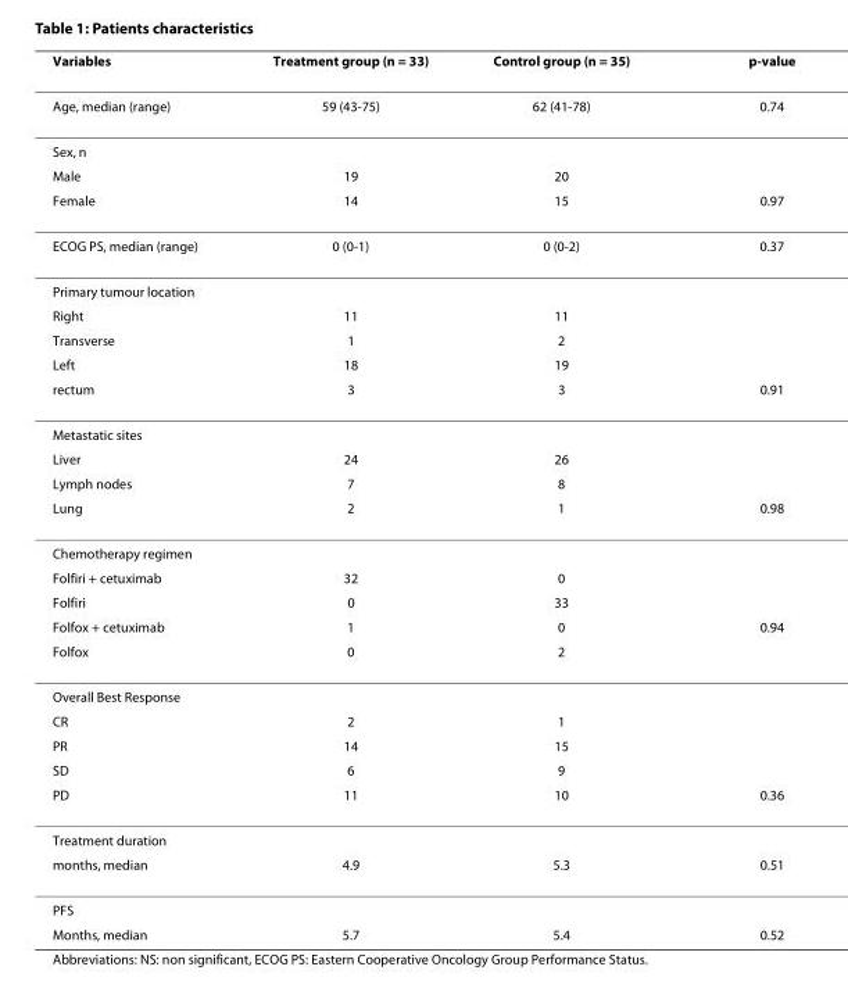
<table><thead><tr><td>Variables</td><td>Treatment group (n = 33)</td><td>Control group (n = 35)</td><td>p-value</td></tr></thead><tbody><tr><td>Age, median (range)</td><td>59 (43-75)</td><td>62 (41-78)</td><td>0.74</td></tr><tr><td colspan="4">Sex, n</td></tr><tr><td>Male</td><td>19</td><td>20</td><td></td></tr><tr><td>Female</td><td>14</td><td>15</td><td>0.97</td></tr><tr><td>ECOG PS, median (range)</td><td>0 (0-1)</td><td>0 (0-2)</td><td>0.37</td></tr><tr><td colspan="4">Primary tumour location</td></tr><tr><td>Right</td><td>11</td><td>11</td><td></td></tr><tr><td>Transverse</td><td>1</td><td>2</td><td></td></tr><tr><td>Left</td><td>18</td><td>19</td><td></td></tr><tr><td>rectum</td><td>3</td><td>3</td><td>0.91</td></tr><tr><td colspan="4">Metastatic sites</td></tr><tr><td>Liver</td><td>24</td><td>26</td><td></td></tr><tr><td>Lymph nodes</td><td>7</td><td>8</td><td></td></tr><tr><td>Lung</td><td>2</td><td>1</td><td>0.98</td></tr><tr><td colspan="4">Chemotherapy regimen</td></tr><tr><td>Folfiri + cetuximab</td><td>32</td><td>0</td><td></td></tr><tr><td>Folfiri</td><td>0</td><td>33</td><td></td></tr><tr><td>Folfox + cetuximab</td><td>1</td><td>0</td><td>0.94</td></tr><tr><td>Folfox</td><td>0</td><td>2</td><td></td></tr><tr><td colspan="4">Overall Best Response</td></tr><tr><td>CR</td><td>2</td><td>1</td><td></td></tr><tr><td>PR</td><td>14</td><td>15</td><td></td></tr><tr><td>SD</td><td>6</td><td>9</td><td></td></tr><tr><td>PD</td><td>11</td><td>10</td><td>0.36</td></tr><tr><td colspan="4">Treatment duration</td></tr><tr><td>months, median</td><td>4.9</td><td>5.3</td><td>0.51</td></tr><tr><td colspan="4">PFS</td></tr><tr><td>Months, median</td><td>5.7</td><td>5.4</td><td>0.52</td></tr></tbody></table>